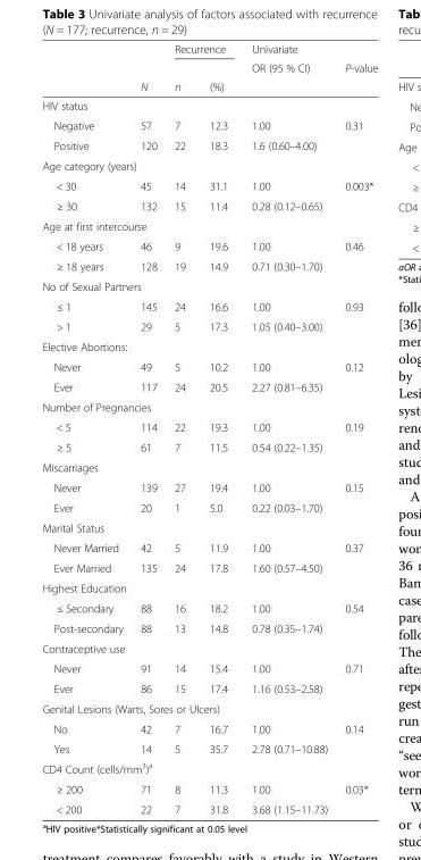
<table><thead><tr><td rowspan="3"></td><td rowspan="3">N</td><td colspan="2">Recurrence</td><td rowspan="3">Univariate OR (95 % CI)</td><td rowspan="3">P-value</td></tr><tr><td rowspan="2">n</td><td rowspan="2">(%)</td></tr><tr></tr></thead><tbody><tr><td colspan="6">HIV status</td></tr><tr><td>Negative</td><td>57</td><td>7</td><td>12.3</td><td>1.00</td><td rowspan="2">0.31</td></tr><tr><td>Positive</td><td>120</td><td>22</td><td>18.3</td><td>1.6 (0.60–4.00)</td></tr><tr><td colspan="6">Age category (years)</td></tr><tr><td>&lt; 30</td><td>45</td><td>14</td><td>31.1</td><td>1.00</td><td rowspan="2">0.003*</td></tr><tr><td>≥ 30</td><td>132</td><td>15</td><td>11.4</td><td>0.28 (0.12–0.65)</td></tr><tr><td colspan="6">Age at first intercourse</td></tr><tr><td>&lt; 18 years</td><td>46</td><td>9</td><td>19.6</td><td>1.00</td><td rowspan="2">0.46</td></tr><tr><td>≥ 18 years</td><td>128</td><td>19</td><td>14.9</td><td>0.71 (0.30–1.70)</td></tr><tr><td colspan="6">No of Sexual Partners</td></tr><tr><td>≤ 1</td><td>145</td><td>24</td><td>16.6</td><td>1.00</td><td rowspan="2">0.93</td></tr><tr><td>&gt; 1</td><td>29</td><td>5</td><td>17.3</td><td>1.05 (0.40–3.00)</td></tr><tr><td colspan="6">Elective Abortions:</td></tr><tr><td>Never</td><td>49</td><td>5</td><td>10.2</td><td>1.00</td><td rowspan="2">0.12</td></tr><tr><td>Ever</td><td>117</td><td>24</td><td>20.5</td><td>2.27 (0.81–6.35)</td></tr><tr><td colspan="6">Number of Pregnancies</td></tr><tr><td>&lt; 5</td><td>114</td><td>22</td><td>19.3</td><td>1.00</td><td rowspan="2">0.19</td></tr><tr><td>≥ 5</td><td>61</td><td>7</td><td>11.5</td><td>0.54 (0.22–1.35)</td></tr><tr><td colspan="6">Miscarriages</td></tr><tr><td>Never</td><td>139</td><td>27</td><td>19.4</td><td>1.00</td><td rowspan="2">0.15</td></tr><tr><td>Ever</td><td>20</td><td>1</td><td>5.0</td><td>0.22 (0.03–1.70)</td></tr><tr><td colspan="6">Marital Status</td></tr><tr><td>Never Married</td><td>42</td><td>5</td><td>11.9</td><td>1.00</td><td rowspan="2">0.37</td></tr><tr><td>Ever Married</td><td>135</td><td>24</td><td>17.8</td><td>1.60 (0.57–4.50)</td></tr><tr><td colspan="6">Highest Education</td></tr><tr><td>≤ Secondary</td><td>88</td><td>16</td><td>18.2</td><td>1.00</td><td rowspan="2">0.54</td></tr><tr><td>Post-secondary</td><td>88</td><td>13</td><td>14.8</td><td>0.78 (0.35–1.74)</td></tr><tr><td colspan="6">Contraceptive use</td></tr><tr><td>Never</td><td>91</td><td>14</td><td>15.4</td><td>1.00</td><td rowspan="2">0.71</td></tr><tr><td>Ever</td><td>86</td><td>15</td><td>17.4</td><td>1.16 (0.53–2.58)</td></tr><tr><td colspan="6">Genital Lesions (Warts, Sores or Ulcers)</td></tr><tr><td>No</td><td>42</td><td>7</td><td>16.7</td><td>1.00</td><td rowspan="2">0.14</td></tr><tr><td>Yes</td><td>14</td><td>5</td><td>35.7</td><td>2.78 (0.71–10.88)</td></tr><tr><td colspan="6">CD4 Count (cells/mm<sup>3</sup>)<sup>a</sup></td></tr><tr><td>≥ 200</td><td>71</td><td>8</td><td>11.3</td><td>1.00</td><td rowspan="2">0.03*</td></tr><tr><td>&lt; 200</td><td>22</td><td>7</td><td>31.8</td><td>3.68 (1.15–11.73)</td></tr></tbody></table>